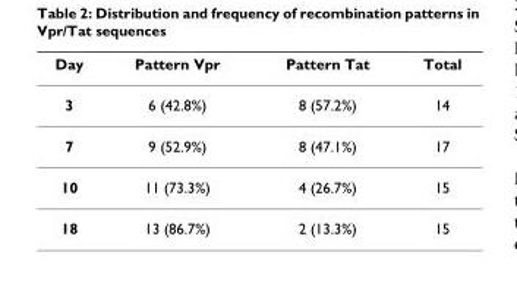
<table><thead><tr><td>Day</td><td>Pattern Vpr</td><td>Pattern Tat</td><td>Total</td></tr></thead><tbody><tr><td>3</td><td>6 (42.8%)</td><td>8 (57.2%)</td><td>14</td></tr><tr><td>7</td><td>9 (52.9%)</td><td>8 (47.1%)</td><td>17</td></tr><tr><td>10</td><td>11 (73.3%)</td><td>4 (26.7%)</td><td>15</td></tr><tr><td>18</td><td>13 (86.7%)</td><td>2 (13.3%)</td><td>15</td></tr></tbody></table>